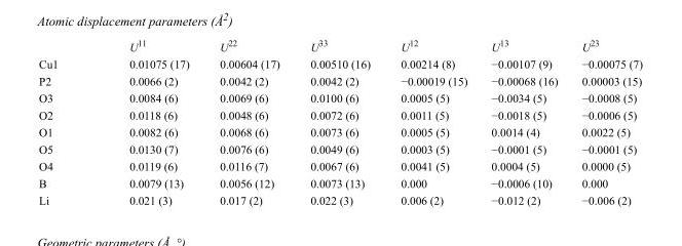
<table><thead><tr><td></td><td>U<sup>11</sup></td><td>U<sup>22</sup></td><td>U<sup>33</sup></td><td>U<sup>12</sup></td><td>U<sup>13</sup></td><td>U<sup>23</sup></td></tr></thead><tbody><tr><td>Cu1</td><td>0.01075 (17)</td><td>0.00604 (17)</td><td>0.00510 (16)</td><td>0.00214 (8)</td><td>−0.00107 (9)</td><td>−0.00075 (7)</td></tr><tr><td>P2</td><td>0.0066 (2)</td><td>0.0042 (2)</td><td>0.0042 (2)</td><td>−0.00019 (15)</td><td>−0.00068 (16)</td><td>0.00003 (15)</td></tr><tr><td>O3</td><td>0.0084 (6)</td><td>0.0069 (6)</td><td>0.0100 (6)</td><td>0.0005 (5)</td><td>−0.0034 (5)</td><td>−0.0008 (5)</td></tr><tr><td>O2</td><td>0.0118 (6)</td><td>0.0048 (6)</td><td>0.0072 (6)</td><td>0.0011 (5)</td><td>−0.0018 (5)</td><td>−0.0006 (5)</td></tr><tr><td>O1</td><td>0.0082 (6)</td><td>0.0068 (6)</td><td>0.0073 (6)</td><td>0.0005 (5)</td><td>0.0014 (4)</td><td>0.0022 (5)</td></tr><tr><td>O5</td><td>0.0130 (7)</td><td>0.0076 (6)</td><td>0.0049 (6)</td><td>0.0003 (5)</td><td>−0.0001 (5)</td><td>−0.0001 (5)</td></tr><tr><td>O4</td><td>0.0119 (6)</td><td>0.0116 (7)</td><td>0.0067 (6)</td><td>0.0041 (5)</td><td>0.0004 (5)</td><td>0.0000 (5)</td></tr><tr><td>B</td><td>0.0079 (13)</td><td>0.0056 (12)</td><td>0.0073 (13)</td><td>0.000</td><td>−0.0006 (10)</td><td>0.000</td></tr><tr><td>Li</td><td>0.021 (3)</td><td>0.017 (2)</td><td>0.022 (3)</td><td>0.006 (2)</td><td>−0.012 (2)</td><td>−0.006 (2)</td></tr></tbody></table>